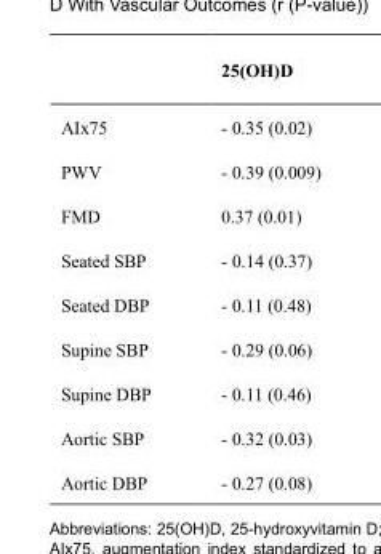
<table><thead><tr><td></td><td>25(OH)D</td></tr></thead><tbody><tr><td>AIx75</td><td>- 0.35 (0.02)</td></tr><tr><td>PWV</td><td>- 0.39 (0.009)</td></tr><tr><td>FMD</td><td>0.37 (0.01)</td></tr><tr><td>Seated SBP</td><td>- 0.14 (0.37)</td></tr><tr><td>Seated DBP</td><td>- 0.11 (0.48)</td></tr><tr><td>Supine SBP</td><td>- 0.29 (0.06)</td></tr><tr><td>Supine DBP</td><td>- 0.11 (0.46)</td></tr><tr><td>Aortic SBP</td><td>- 0.32 (0.03)</td></tr><tr><td>Aortic DBP</td><td>- 0.27 (0.08)</td></tr></tbody></table>